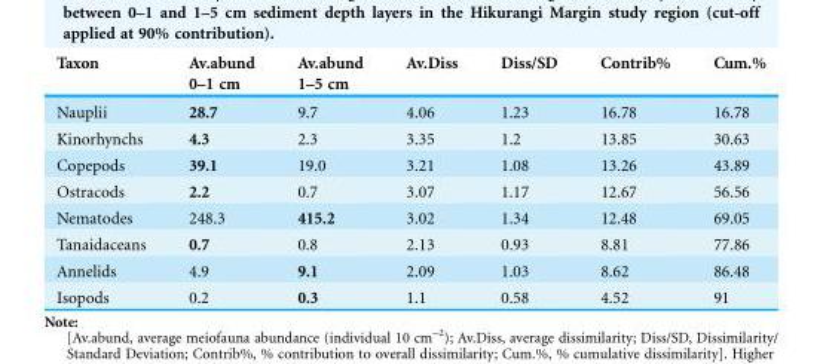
<table><thead><tr><td rowspan="2">Taxon</td><td rowspan="2">Av.abund 0–1 cm</td><td rowspan="2">Av.abund 1–5 cm</td><td rowspan="2">Av.Diss</td><td rowspan="2">Diss/SD</td><td rowspan="2">Contrib%</td><td rowspan="2">Cum.%</td></tr><tr></tr></thead><tbody><tr><td>Nauplii</td><td>28.7</td><td>9.7</td><td>4.06</td><td>1.23</td><td>16.78</td><td>16.78</td></tr><tr><td>Kinorhynchs</td><td>4.3</td><td>2.3</td><td>3.35</td><td>1.2</td><td>13.85</td><td>30.63</td></tr><tr><td>Copepods</td><td>39.1</td><td>19.0</td><td>3.21</td><td>1.08</td><td>13.26</td><td>43.89</td></tr><tr><td>Ostracods</td><td>2.2</td><td>0.7</td><td>3.07</td><td>1.17</td><td>12.67</td><td>56.56</td></tr><tr><td>Nematodes</td><td>248.3</td><td>415.2</td><td>3.02</td><td>1.34</td><td>12.48</td><td>69.05</td></tr><tr><td>Tanaidaceans</td><td>0.7</td><td>0.8</td><td>2.13</td><td>0.93</td><td>8.81</td><td>77.86</td></tr><tr><td>Annelids</td><td>4.9</td><td>9.1</td><td>2.09</td><td>1.03</td><td>8.62</td><td>86.48</td></tr><tr><td>Isopods</td><td>0.2</td><td>0.3</td><td>1.1</td><td>0.58</td><td>4.52</td><td>91</td></tr></tbody></table>